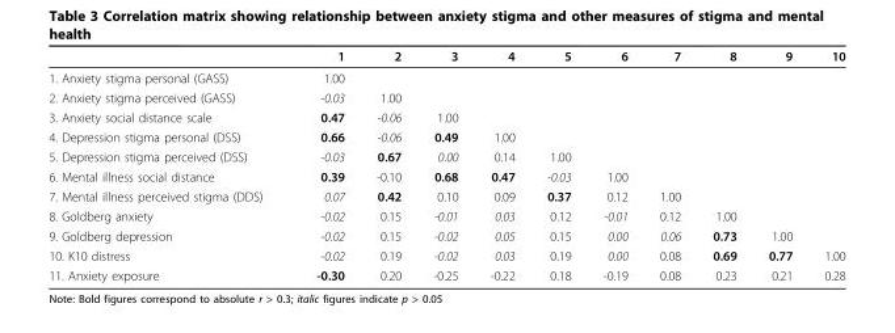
<table><thead><tr><td></td><td>1</td><td>2</td><td>3</td><td>4</td><td>5</td><td>6</td><td>7</td><td>8</td><td>9</td><td>10</td></tr></thead><tbody><tr><td>1. Anxiety stigma personal (GASS)</td><td>1.00</td><td></td><td></td><td></td><td></td><td></td><td></td><td></td><td></td><td></td></tr><tr><td>2. Anxiety stigma perceived (GASS)</td><td>-0.03</td><td>1.00</td><td></td><td></td><td></td><td></td><td></td><td></td><td></td><td></td></tr><tr><td>3. Anxiety social distance scale</td><td>0.47</td><td>-0.06</td><td>1.00</td><td></td><td></td><td></td><td></td><td></td><td></td><td></td></tr><tr><td>4. Depression stigma personal (DSS)</td><td>0.66</td><td>-0.06</td><td>0.49</td><td>1.00</td><td></td><td></td><td></td><td></td><td></td><td></td></tr><tr><td>5. Depression stigma perceived (DSS)</td><td>-0.03</td><td>0.67</td><td>0.00</td><td>0.14</td><td>1.00</td><td></td><td></td><td></td><td></td><td></td></tr><tr><td>6. Mental illness social distance</td><td>0.39</td><td>-0.10</td><td>0.68</td><td>0.47</td><td>-0.03</td><td>1.00</td><td></td><td></td><td></td><td></td></tr><tr><td>7. Mental illness perceived stigma (DDS)</td><td>0.07</td><td>0.42</td><td>0.10</td><td>0.09</td><td>0.37</td><td>0.12</td><td>1.00</td><td></td><td></td><td></td></tr><tr><td>8. Goldberg anxiety</td><td>-0.02</td><td>0.15</td><td>-0.01</td><td>0.03</td><td>0.12</td><td>-0.01</td><td>0.12</td><td>1.00</td><td></td><td></td></tr><tr><td>9. Goldberg depression</td><td>-0.02</td><td>0.15</td><td>-0.02</td><td>0.05</td><td>0.15</td><td>0.00</td><td>0.06</td><td>0.73</td><td>1.00</td><td></td></tr><tr><td>10. K10 distress</td><td>-0.02</td><td>0.19</td><td>-0.02</td><td>0.03</td><td>0.19</td><td>0.00</td><td>0.08</td><td>0.69</td><td>0.77</td><td>1.00</td></tr><tr><td>11. Anxiety exposure</td><td>-0.30</td><td>0.20</td><td>-0.25</td><td>-0.22</td><td>0.18</td><td>-0.19</td><td>0.08</td><td>0.23</td><td>0.21</td><td>0.28</td></tr></tbody></table>